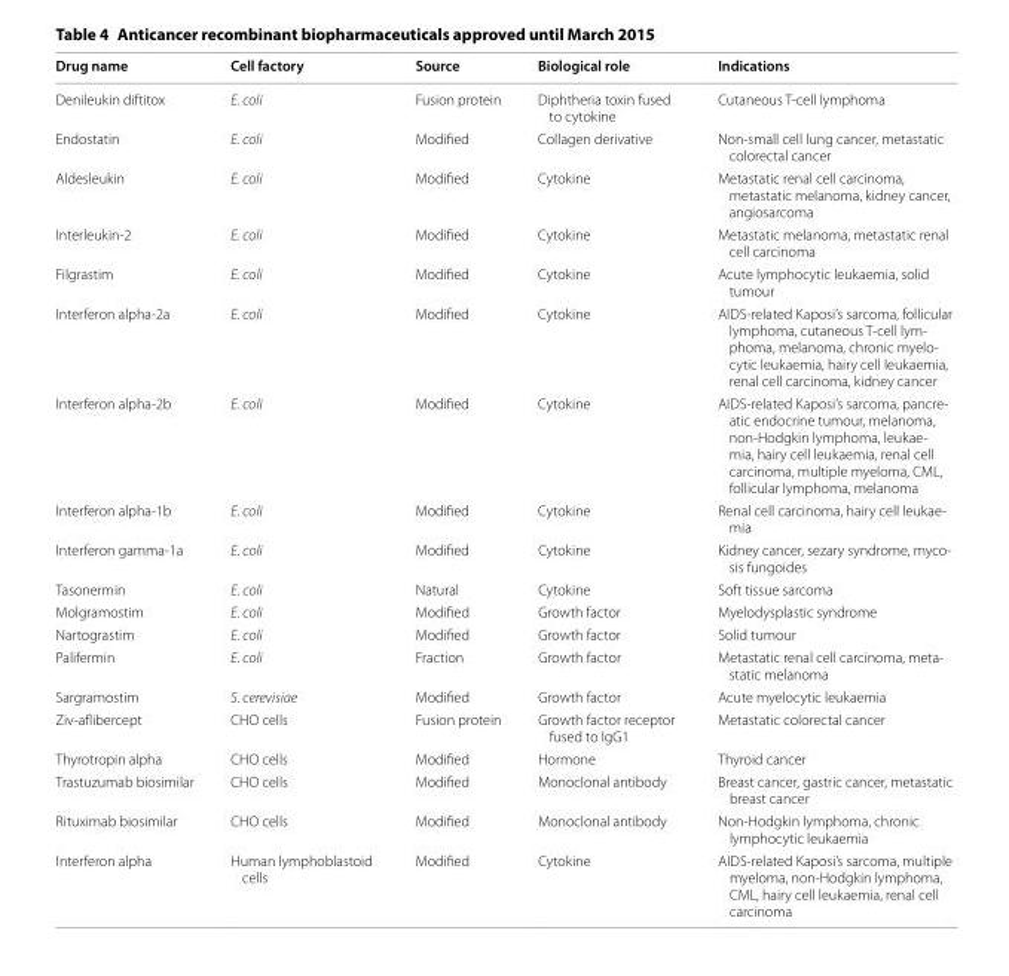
<table><thead><tr><td>Drug name</td><td>Cell factory</td><td>Source</td><td>Biological role</td><td>Indications</td></tr></thead><tbody><tr><td>Denileukin diftitox</td><td>E. coli</td><td>Fusion protein</td><td>Diphtheria toxin fused to cytokine</td><td>Cutaneous T‑cell lymphoma</td></tr><tr><td>Endostatin</td><td>E. coli</td><td>Modified</td><td>Collagen derivative</td><td>Non‑small cell lung cancer, metastatic colorectal cancer</td></tr><tr><td>Aldesleukin</td><td>E. coli</td><td>Modified</td><td>Cytokine</td><td>Metastatic renal cell carcinoma, metastatic melanoma, kidney cancer, angiosarcoma</td></tr><tr><td>Interleukin‑2</td><td>E. coli</td><td>Modified</td><td>Cytokine</td><td>Metastatic melanoma, metastatic renal cell carcinoma</td></tr><tr><td>Filgrastim</td><td>E. coli</td><td>Modified</td><td>Cytokine</td><td>Acute lymphocytic leukaemia, solid tumour</td></tr><tr><td>Interferon alpha‑2a</td><td>E. coli</td><td>Modified</td><td>Cytokine</td><td>AIDS‑related Kaposi’s sarcoma, follicular lymphoma, cutaneous T‑cell lym‑ phoma, melanoma, chronic myelo‑ cytic leukaemia, hairy cell leukaemia, renal cell carcinoma, kidney cancer</td></tr><tr><td>Interferon alpha‑2b</td><td>E. coli</td><td>Modified</td><td>Cytokine</td><td>AIDS‑related Kaposi’s sarcoma, pancre‑ atic endocrine tumour, melanoma, non‑Hodgkin lymphoma, leukae‑ mia, hairy cell leukaemia, renal cell carcinoma, multiple myeloma, CML, follicular lymphoma, melanoma</td></tr><tr><td>Interferon alpha‑1b</td><td>E. coli</td><td>Modified</td><td>Cytokine</td><td>Renal cell carcinoma, hairy cell leukae‑ mia</td></tr><tr><td>Interferon gamma‑1a</td><td>E. coli</td><td>Modified</td><td>Cytokine</td><td>Kidney cancer, sezary syndrome, myco‑ sis fungoides</td></tr><tr><td>Tasonermin</td><td>E. coli</td><td>Natural</td><td>Cytokine</td><td>Soft tissue sarcoma</td></tr><tr><td>Molgramostim</td><td>E. coli</td><td>Modified</td><td>Growth factor</td><td>Myelodysplastic syndrome</td></tr><tr><td>Nartograstim</td><td>E. coli</td><td>Modified</td><td>Growth factor</td><td>Solid tumour</td></tr><tr><td>Palifermin</td><td>E. coli</td><td>Fraction</td><td>Growth factor</td><td>Metastatic renal cell carcinoma, meta‑ static melanoma</td></tr><tr><td>Sargramostim</td><td>S. cerevisiae</td><td>Modified</td><td>Growth factor</td><td>Acute myelocytic leukaemia</td></tr><tr><td>Ziv‑aflibercept</td><td>CHO cells</td><td>Fusion protein</td><td>Growth factor receptor fused to IgG1</td><td>Metastatic colorectal cancer</td></tr><tr><td>Thyrotropin alpha</td><td>CHO cells</td><td>Modified</td><td>Hormone</td><td>Thyroid cancer</td></tr><tr><td>Trastuzumab biosimilar</td><td>CHO cells</td><td>Modified</td><td>Monoclonal antibody</td><td>Breast cancer, gastric cancer, metastatic breast cancer</td></tr><tr><td>Rituximab biosimilar</td><td>CHO cells</td><td>Modified</td><td>Monoclonal antibody</td><td>Non‑Hodgkin lymphoma, chronic lymphocytic leukaemia</td></tr><tr><td>Interferon alpha</td><td>Human lymphoblastoid cells</td><td>Modified</td><td>Cytokine</td><td>AIDS‑related Kaposi’s sarcoma, multiple myeloma, non‑Hodgkin lymphoma, CML, hairy cell leukaemia, renal cell carcinoma</td></tr></tbody></table>